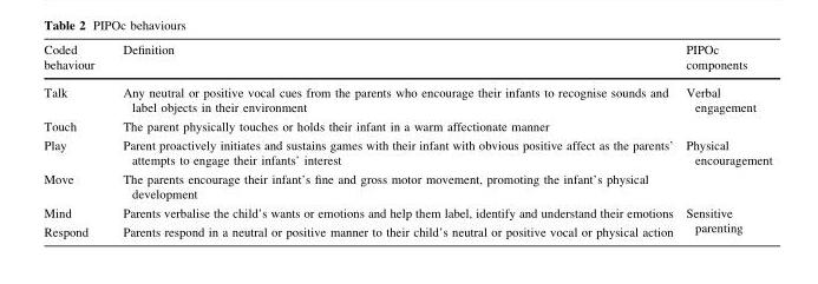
<table><thead><tr><td>Coded behaviour</td><td>Definition</td><td>PIPOc components</td></tr></thead><tbody><tr><td>Talk</td><td>Any neutral or positive vocal cues from the parents who encourage their infants to recognise sounds and label objects in their environment</td><td rowspan="2">Verbal engagement</td></tr><tr><td>Touch</td><td>The parent physically touches or holds their infant in a warm affectionate manner</td></tr><tr><td>Play</td><td>Parent proactively initiates and sustains games with their infant with obvious positive affect as the parents’ attempts to engage their infants’ interest</td><td rowspan="2">Physical encouragement</td></tr><tr><td>Move</td><td>The parents encourage their infant’s fine and gross motor movement, promoting the infant’s physical development</td></tr><tr><td>Mind</td><td>Parents verbalise the child’s wants or emotions and help them label, identify and understand their emotions</td><td rowspan="2">Sensitive parenting</td></tr><tr><td>Respond</td><td>Parents respond in a neutral or positive manner to their child’s neutral or positive vocal or physical action</td></tr></tbody></table>